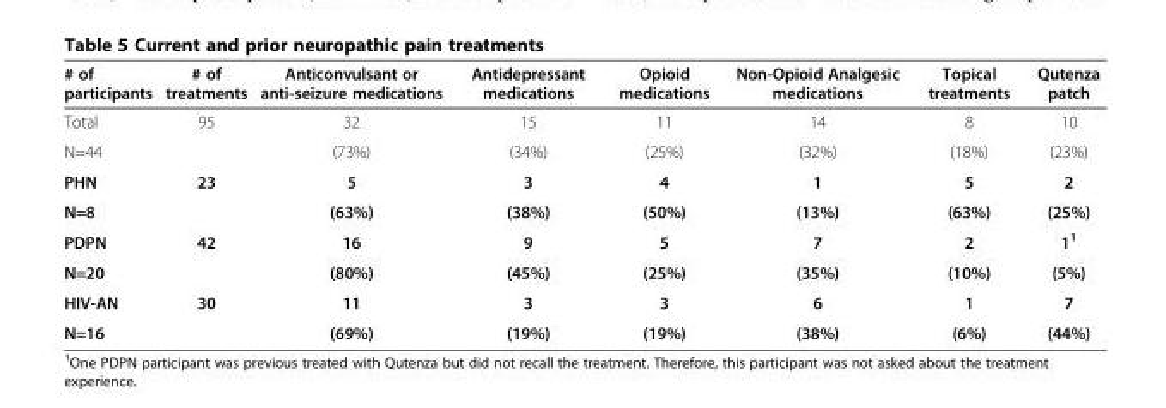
<table><thead><tr><td># of participants</td><td># of treatments</td><td>Anticonvulsant or anti-seizure medications</td><td>Antidepressant medications</td><td>Opioid medications</td><td>Non-Opioid Analgesic medications</td><td>Topical treatments</td><td>Qutenza patch</td></tr></thead><tbody><tr><td>Total</td><td>95</td><td>32</td><td>15</td><td>11</td><td>14</td><td>8</td><td>10</td></tr><tr><td>N=44</td><td></td><td>(73%)</td><td>(34%)</td><td>(25%)</td><td>(32%)</td><td>(18%)</td><td>(23%)</td></tr><tr><td>PHN</td><td>23</td><td>5</td><td>3</td><td>4</td><td>1</td><td>5</td><td>2</td></tr><tr><td>N=8</td><td></td><td>(63%)</td><td>(38%)</td><td>(50%)</td><td>(13%)</td><td>(63%)</td><td>(25%)</td></tr><tr><td>PDPN</td><td>42</td><td>16</td><td>9</td><td>5</td><td>7</td><td>2</td><td>1<sup>1</sup></td></tr><tr><td>N=20</td><td></td><td>(80%)</td><td>(45%)</td><td>(25%)</td><td>(35%)</td><td>(10%)</td><td>(5%)</td></tr><tr><td>HIV-AN</td><td>30</td><td>11</td><td>3</td><td>3</td><td>6</td><td>1</td><td>7</td></tr><tr><td>N=16</td><td></td><td>(69%)</td><td>(19%)</td><td>(19%)</td><td>(38%)</td><td>(6%)</td><td>(44%)</td></tr></tbody></table>